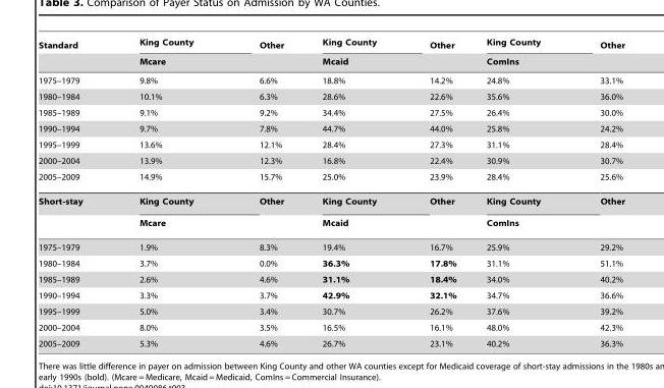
<table><thead><tr><td rowspan="2">Standard</td><td rowspan="2">King County Mcare</td><td rowspan="2">Other</td><td rowspan="2">King County Mcaid</td><td rowspan="2">Other</td><td>King County</td><td>Other</td></tr><tr><td colspan="2">ComIns</td></tr></thead><tbody><tr><td>1975–1979</td><td>9.8%</td><td>6.6%</td><td>18.8%</td><td>14.2%</td><td>24.8%</td><td>33.1%</td></tr><tr><td>1980–1984</td><td>10.1%</td><td>6.3%</td><td>28.6%</td><td>22.6%</td><td>35.6%</td><td>36.0%</td></tr><tr><td>1985–1989</td><td>9.1%</td><td>9.2%</td><td>34.4%</td><td>27.5%</td><td>26.4%</td><td>30.0%</td></tr><tr><td>1990–1994</td><td>9.7%</td><td>7.8%</td><td>44.7%</td><td>44.0%</td><td>25.8%</td><td>24.2%</td></tr><tr><td>1995–1999</td><td>13.6%</td><td>12.1%</td><td>28.4%</td><td>27.3%</td><td>31.1%</td><td>28.4%</td></tr><tr><td>2000–2004</td><td>13.9%</td><td>12.3%</td><td>16.8%</td><td>22.4%</td><td>30.9%</td><td>30.7%</td></tr><tr><td>2005–2009</td><td>14.9%</td><td>15.7%</td><td>25.0%</td><td>23.9%</td><td>28.4%</td><td>25.6%</td></tr><tr><td rowspan="2">Short-stay</td><td>King County</td><td>Other</td><td>King County</td><td>Other</td><td>King County</td><td>Other</td></tr><tr><td>Mcare</td><td></td><td>Mcaid</td><td></td><td colspan="2">ComIns</td></tr><tr><td>1975–1979</td><td>1.9%</td><td>8.3%</td><td>19.4%</td><td>16.7%</td><td>25.9%</td><td>29.2%</td></tr><tr><td>1980–1984</td><td>3.7%</td><td>0.0%</td><td>36.3%</td><td>17.8%</td><td>31.1%</td><td>51.1%</td></tr><tr><td>1985–1989</td><td>2.6%</td><td>4.6%</td><td>31.1%</td><td>18.4%</td><td>34.0%</td><td>40.2%</td></tr><tr><td>1990–1994</td><td>3.3%</td><td>3.7%</td><td>42.9%</td><td>32.1%</td><td>34.7%</td><td>36.6%</td></tr><tr><td>1995–1999</td><td>5.0%</td><td>3.4%</td><td>30.7%</td><td>26.2%</td><td>37.6%</td><td>39.2%</td></tr><tr><td>2000–2004</td><td>8.0%</td><td>3.5%</td><td>16.5%</td><td>16.1%</td><td>48.0%</td><td>42.3%</td></tr><tr><td>2005–2009</td><td>5.3%</td><td>4.6%</td><td>26.7%</td><td>23.1%</td><td>40.2%</td><td>36.3%</td></tr></tbody></table>